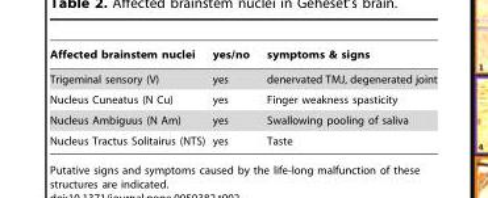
<table><thead><tr><td>Affected brainstem nuclei</td><td>yes/no</td><td>symptoms &amp; signs</td></tr></thead><tbody><tr><td>Trigeminal sensory (V)</td><td>yes</td><td>denervated TMJ, degenerated joint</td></tr><tr><td>Nucleus Cuneatus (N Cu)</td><td>yes</td><td>Finger weakness spasticity</td></tr><tr><td>Nucleus Ambiguus (N Am)</td><td>yes</td><td>Swallowing pooling of saliva</td></tr><tr><td>Nucleus Tractus Solitairus (NTS)</td><td>yes</td><td>Taste</td></tr></tbody></table>